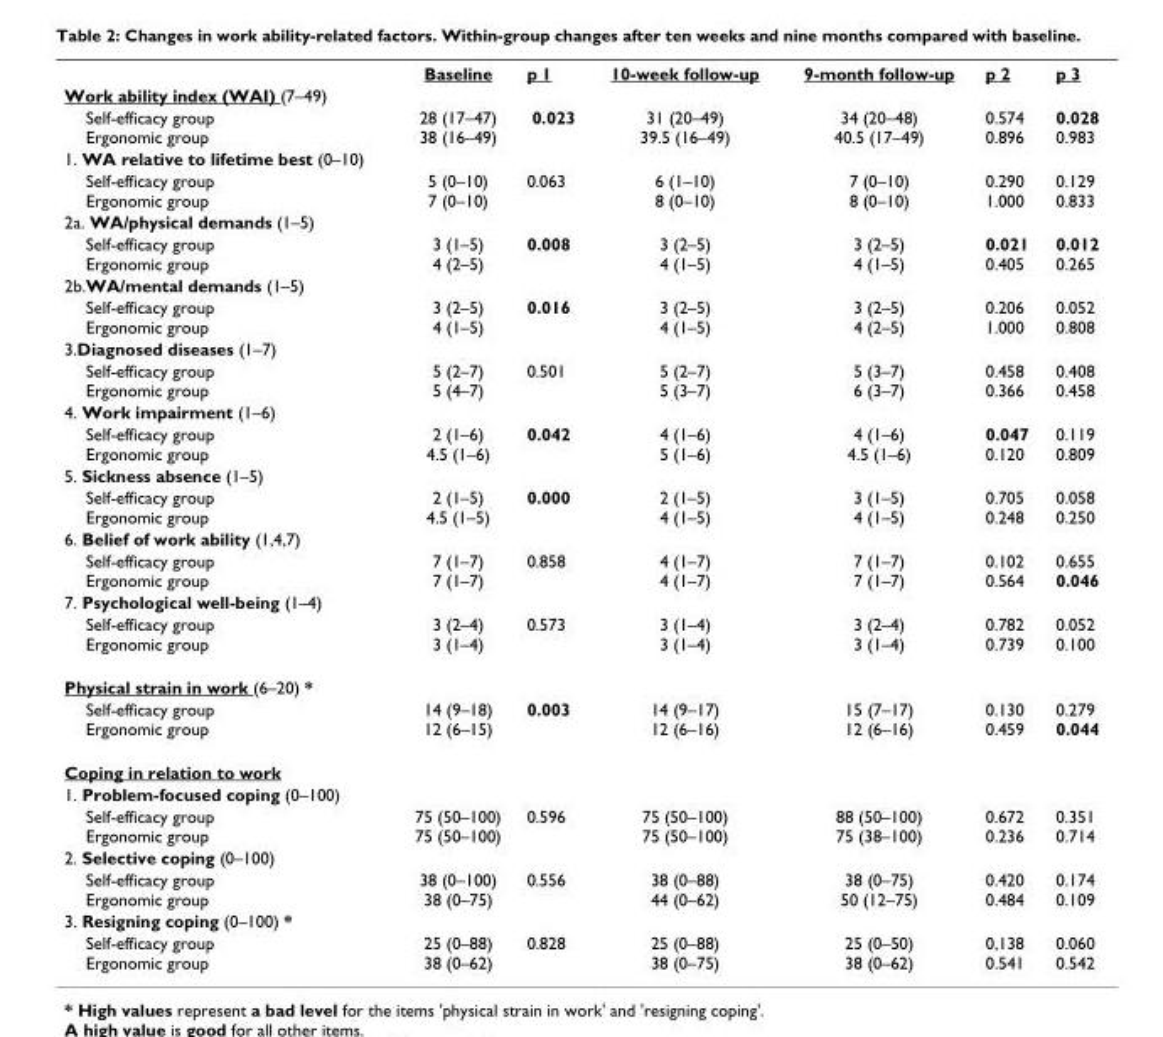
<table><thead><tr><td></td><td>Baseline</td><td>p 1</td><td>10-week follow-up</td><td>9-month follow-up</td><td>p 2</td><td>p 3</td></tr></thead><tbody><tr><td colspan="7">Work ability index (WAI) (7–49)</td></tr><tr><td>Self-efficacy group Ergonomic group</td><td>28 (17–47) 38 (16–49)</td><td>0.023</td><td>31 (20–49) 39.5 (16–49)</td><td>34 (20–48) 40.5 (17–49)</td><td>0.574 0.896</td><td>0.028 0.983</td></tr><tr><td colspan="7">1. WA relative to lifetime best (0–10)</td></tr><tr><td>Self-efficacy group Ergonomic group</td><td>5 (0–10) 7 (0–10)</td><td>0.063</td><td>6 (1–10) 8 (0–10)</td><td>7 (0–10) 8 (0–10)</td><td>0.290 1.000</td><td>0.129 0.833</td></tr><tr><td colspan="7">2a. WA/physical demands (1–5)</td></tr><tr><td>Self-efficacy group Ergonomic group</td><td>3 (1–5) 4 (2–5)</td><td>0.008</td><td>3 (2–5) 4 (1–5)</td><td>3 (2–5) 4 (1–5)</td><td>0.021 0.405</td><td>0.012 0.265</td></tr><tr><td colspan="7">2b.WA/mental demands (1–5)</td></tr><tr><td>Self-efficacy group Ergonomic group</td><td>3 (2–5) 4 (1–5)</td><td>0.016</td><td>3 (2–5) 4 (1–5)</td><td>3 (2–5) 4 (2–5)</td><td>0.206 1.000</td><td>0.052 0.808</td></tr><tr><td colspan="7">3.Diagnosed diseases (1–7)</td></tr><tr><td>Self-efficacy group Ergonomic group</td><td>5 (2–7) 5 (4–7)</td><td>0.501</td><td>5 (2–7) 5 (3–7)</td><td>5 (3–7) 6 (3–7)</td><td>0.458 0.366</td><td>0.408 0.458</td></tr><tr><td colspan="7">4. Work impairment (1–6)</td></tr><tr><td>Self-efficacy group Ergonomic group</td><td>2 (1–6) 4.5 (1–6)</td><td>0.042</td><td>4 (1–6) 5 (1–6)</td><td>4 (1–6) 4.5 (1–6)</td><td>0.047 0.120</td><td>0.119 0.809</td></tr><tr><td colspan="7">5. Sickness absence (1–5)</td></tr><tr><td>Self-efficacy group Ergonomic group</td><td>2 (1–5) 4.5 (1–5)</td><td>0.000</td><td>2 (1–5) 4 (1–5)</td><td>3 (1–5) 4 (1–5)</td><td>0.705 0.248</td><td>0.058 0.250</td></tr><tr><td colspan="7">6. Belief of work ability (1,4,7)</td></tr><tr><td>Self-efficacy group Ergonomic group</td><td>7 (1–7) 7 (1–7)</td><td>0.858</td><td>4 (1–7) 4 (1–7)</td><td>7 (1–7) 7 (1–7)</td><td>0.102 0.564</td><td>0.655 0.046</td></tr><tr><td colspan="7">7. Psychological well-being (1–4)</td></tr><tr><td>Self-efficacy group Ergonomic group</td><td>3 (2–4) 3 (1–4)</td><td>0.573</td><td>3 (1–4) 3 (1–4)</td><td>3 (2–4) 3 (1–4)</td><td>0.782 0.739</td><td>0.052 0.100</td></tr><tr><td colspan="7">Physical strain in work (6–20) *</td></tr><tr><td>Self-efficacy group Ergonomic group</td><td>14 (9–18) 12 (6–15)</td><td>0.003</td><td>14 (9–17) 12 (6–16)</td><td>15 (7–17) 12 (6–16)</td><td>0.130 0.459</td><td>0.279 0.044</td></tr><tr><td colspan="7">Coping in relation to work</td></tr><tr><td colspan="7">1. Problem-focused coping (0–100)</td></tr><tr><td>Self-efficacy group Ergonomic group</td><td>75 (50–100) 75 (50–100)</td><td>0.596</td><td>75 (50–100) 75 (50–100)</td><td>88 (50–100) 75 (38–100)</td><td>0.672 0.236</td><td>0.351 0.714</td></tr><tr><td colspan="7">2. Selective coping (0–100)</td></tr><tr><td>Self-efficacy group Ergonomic group</td><td>38 (0–100) 38 (0–75)</td><td>0.556</td><td>38 (0–88) 44 (0–62)</td><td>38 (0–75) 50 (12–75)</td><td>0.420 0.484</td><td>0.174 0.109</td></tr><tr><td colspan="7">3. Resigning coping (0–100) *</td></tr><tr><td>Self-efficacy group Ergonomic group</td><td>25 (0–88) 38 (0–62)</td><td>0.828</td><td>25 (0–88) 38 (0–75)</td><td>25 (0–50) 38 (0–62)</td><td>0,138 0.541</td><td>0.060 0.542</td></tr></tbody></table>